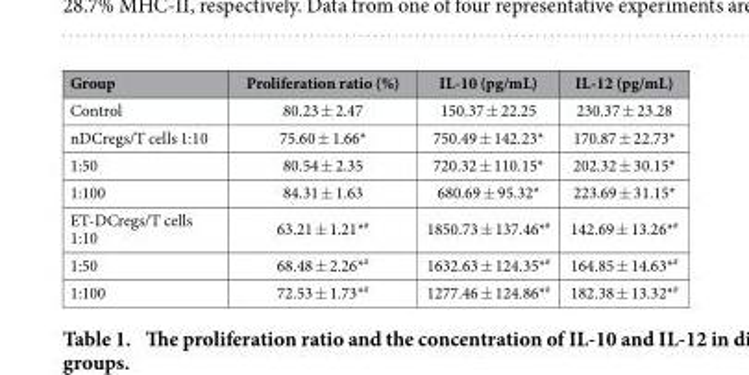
<table><thead><tr><td>Group</td><td>Proliferation ratio (%)</td><td>IL-10 (pg/mL)</td><td>IL-12 (pg/mL)</td></tr></thead><tbody><tr><td>Control</td><td>80.23 ± 2.47</td><td>150.37 ± 22.25</td><td>230.37 ± 23.28</td></tr><tr><td>nDCregs/T cells 1:10</td><td>75.60 ± 1.66*</td><td>750.49 ± 142.23*</td><td>170.87 ± 22.73*</td></tr><tr><td>1:50</td><td>80.54 ± 2.35</td><td>720.32 ± 110.15*</td><td>202.32 ± 30.15*</td></tr><tr><td>1:100</td><td>84.31 ± 1.63</td><td>680.69 ± 95.32*</td><td>223.69 ± 31.15*</td></tr><tr><td>ET-DCregs/T cells 1:10</td><td>63.21 ± 1.21*<sup>#</sup></td><td>1850.73 ± 137.46*<sup>#</sup></td><td>142.69 ± 13.26*<sup>#</sup></td></tr><tr><td>1:50</td><td>68.48 ± 2.26*<sup>#</sup></td><td>1632.63 ± 124.35*<sup>#</sup></td><td>164.85 ± 14.63*<sup>#</sup></td></tr><tr><td>1:100</td><td>72.53 ± 1.73*<sup>#</sup></td><td>1277.46 ± 124.86*<sup>#</sup></td><td>182.38 ± 13.32*<sup>#</sup></td></tr></tbody></table>